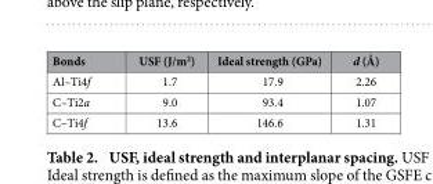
<table><thead><tr><td>Bonds</td><td>USF (J/m<sup>2</sup>)</td><td>Ideal strength (GPa)</td><td>d (Å)</td></tr></thead><tbody><tr><td>Al–Ti4f</td><td>1.7</td><td>17.9</td><td>2.26</td></tr><tr><td>C–Ti2a</td><td>9.0</td><td>93.4</td><td>1.07</td></tr><tr><td>C–Ti4f</td><td>13.6</td><td>146.6</td><td>1.31</td></tr></tbody></table>